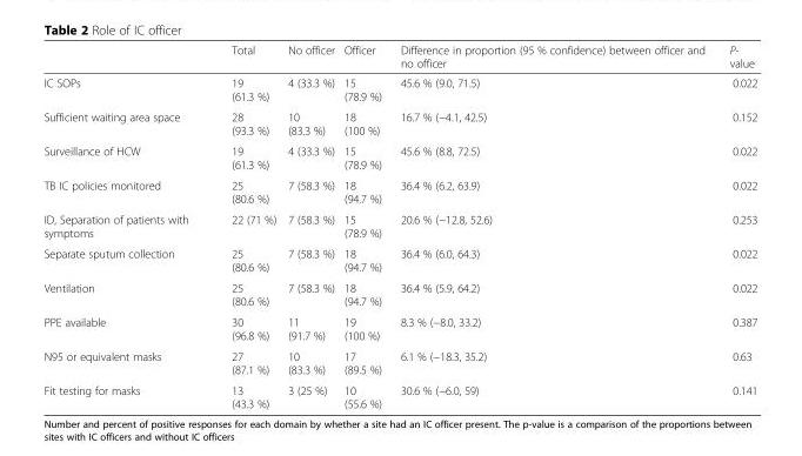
<table><thead><tr><td></td><td>Total</td><td>No officer</td><td>Officer</td><td>Difference in proportion (95 % confidence) between officer and no officer</td><td>P- value</td></tr></thead><tbody><tr><td>IC SOPs</td><td>19 (61.3 %)</td><td>4 (33.3 %)</td><td>15 (78.9 %)</td><td>45.6 % (9.0, 71.5)</td><td>0.022</td></tr><tr><td>Sufficient waiting area space</td><td>28 (93.3 %)</td><td>10 (83.3 %)</td><td>18 (100 %)</td><td>16.7 % (−4.1, 42.5)</td><td>0.152</td></tr><tr><td>Surveillance of HCW</td><td>19 (61.3 %)</td><td>4 (33.3 %)</td><td>15 (78.9 %)</td><td>45.6 % (8.8, 72.5)</td><td>0.022</td></tr><tr><td>TB IC policies monitored</td><td>25 (80.6 %)</td><td>7 (58.3 %)</td><td>18 (94.7 %)</td><td>36.4 % (6.2, 63.9)</td><td>0.022</td></tr><tr><td>ID, Separation of patients with symptoms</td><td>22 (71 %)</td><td>7 (58.3 %)</td><td>15 (78.9 %)</td><td>20.6 % (−12.8, 52.6)</td><td>0.253</td></tr><tr><td>Separate sputum collection</td><td>25 (80.6 %)</td><td>7 (58.3 %)</td><td>18 (94.7 %)</td><td>36.4 % (6.0, 64.3)</td><td>0.022</td></tr><tr><td>Ventilation</td><td>25 (80.6 %)</td><td>7 (58.3 %)</td><td>18 (94.7 %)</td><td>36.4 % (5.9, 64.2)</td><td>0.022</td></tr><tr><td>PPE available</td><td>30 (96.8 %)</td><td>11 (91.7 %)</td><td>19 (100 %)</td><td>8.3 % (−8.0, 33.2)</td><td>0.387</td></tr><tr><td>N95 or equivalent masks</td><td>27 (87.1 %)</td><td>10 (83.3 %)</td><td>17 (89.5 %)</td><td>6.1 % (−18.3, 35.2)</td><td>0.63</td></tr><tr><td>Fit testing for masks</td><td>13 (43.3 %)</td><td>3 (25 %)</td><td>10 (55.6 %)</td><td>30.6 % (−6.0, 59)</td><td>0.141</td></tr></tbody></table>